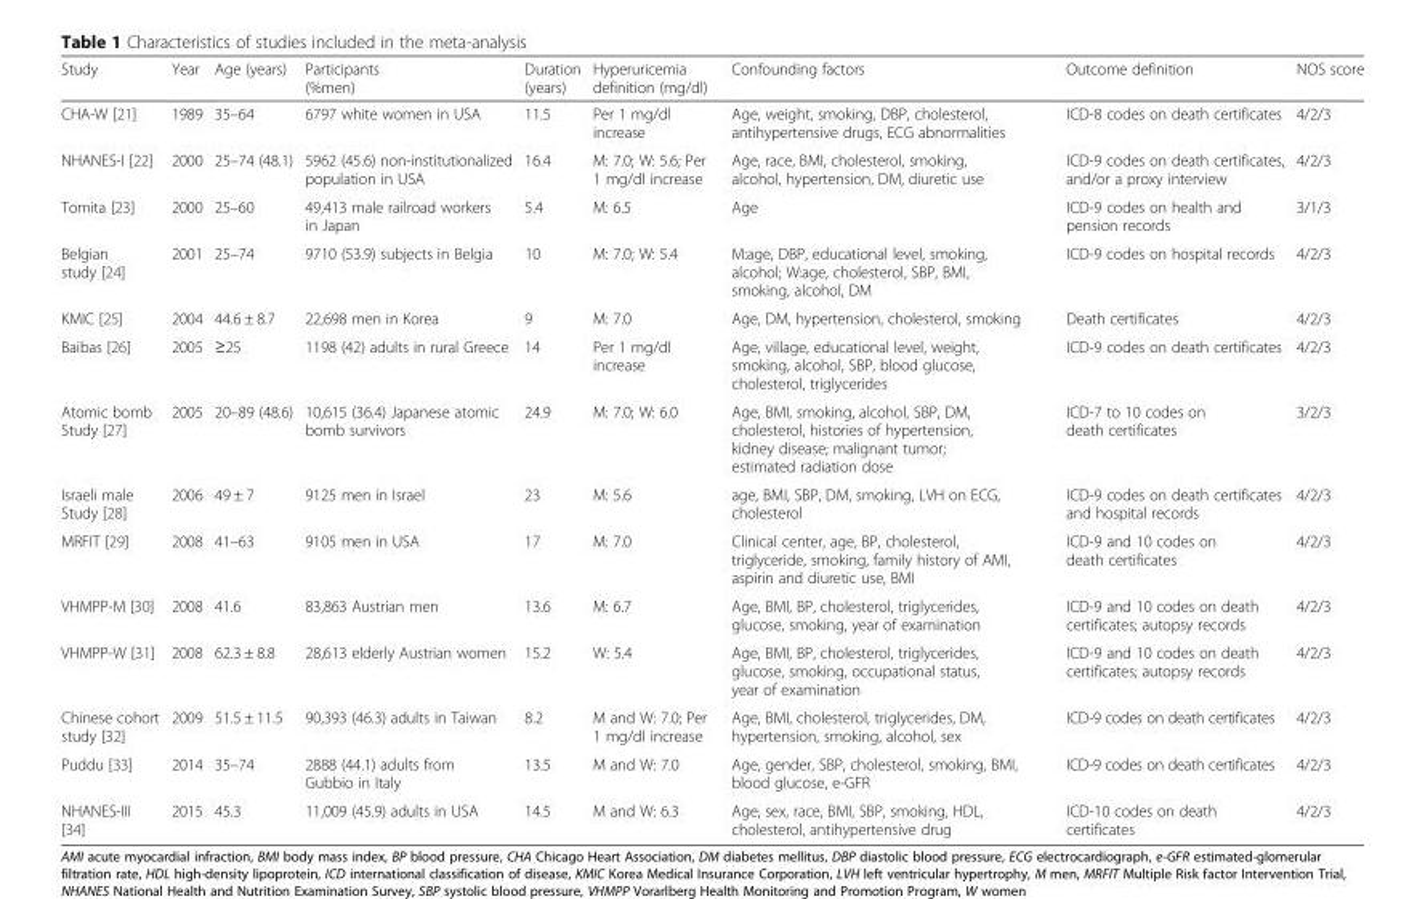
<table><thead><tr><td>Study</td><td>Year</td><td>Age (years)</td><td>Participants (%men)</td><td>Duration (years)</td><td>Hyperuricemia definition (mg/dl)</td><td>Confounding factors</td><td>Outcome definition</td><td>NOS score</td></tr></thead><tbody><tr><td>CHA-W [21]</td><td>1989</td><td>35–64</td><td>6797 white women in USA</td><td>11.5</td><td>Per 1 mg/dl increase</td><td>Age, weight, smoking, DBP, cholesterol, antihypertensive drugs, ECG abnormalities</td><td>ICD-8 codes on death certificates</td><td>4/2/3</td></tr><tr><td>NHANES-I [22]</td><td>2000</td><td>25–74 (48.1)</td><td>5962 (45.6) non-institutionalized population in USA</td><td>16.4</td><td>M: 7.0; W: 5.6; Per 1 mg/dl increase</td><td>Age, race, BMI, cholesterol, smoking, alcohol, hypertension, DM, diuretic use</td><td>ICD-9 codes on death certificates, and/or a proxy interview</td><td>4/2/3</td></tr><tr><td>Tomita [23]</td><td>2000</td><td>25–60</td><td>49,413 male railroad workers in Japan</td><td>5.4</td><td>M: 6.5</td><td>Age</td><td>ICD-9 codes on health and pension records</td><td>3/1/3</td></tr><tr><td>Belgian study [24]</td><td>2001</td><td>25–74</td><td>9710 (53.9) subjects in Belgia</td><td>10</td><td>M: 7.0; W: 5.4</td><td>M:age, DBP, educational level, smoking, alcohol; W:age, cholesterol, SBP, BMI, smoking, alcohol, DM</td><td>ICD-9 codes on hospital records</td><td>4/2/3</td></tr><tr><td>KMIC [25]</td><td>2004</td><td>44.6 ± 8.7</td><td>22,698 men in Korea</td><td>9</td><td>M: 7.0</td><td>Age, DM, hypertension, cholesterol, smoking</td><td>Death certificates</td><td>4/2/3</td></tr><tr><td>Baibas [26]</td><td>2005</td><td>≥25</td><td>1198 (42) adults in rural Greece</td><td>14</td><td>Per 1 mg/dl increase</td><td>Age, village, educational level, weight, smoking, alcohol, SBP, blood glucose, cholesterol, triglycerides</td><td>ICD-9 codes on death certificates</td><td>4/2/3</td></tr><tr><td>Atomic bomb Study [27]</td><td>2005</td><td>20–89 (48.6)</td><td>10,615 (36.4) Japanese atomic bomb survivors</td><td>24.9</td><td>M: 7.0; W: 6.0</td><td>Age, BMI, smoking, alcohol, SBP, DM, cholesterol, histories of hypertension, kidney disease; malignant tumor; estimated radiation dose</td><td>ICD-7 to 10 codes on death certificates</td><td>3/2/3</td></tr><tr><td>Israeli male Study [28]</td><td>2006</td><td>49 ± 7</td><td>9125 men in Israel</td><td>23</td><td>M: 5.6</td><td>age, BMI, SBP, DM, smoking, LVH on ECG, cholesterol</td><td>ICD-9 codes on death certificates and hospital records</td><td>4/2/3</td></tr><tr><td>MRFIT [29]</td><td>2008</td><td>41–63</td><td>9105 men in USA</td><td>17</td><td>M: 7.0</td><td>Clinical center, age, BP, cholesterol, triglyceride, smoking, family history of AMI, aspirin and diuretic use, BMI</td><td>ICD-9 and 10 codes on death certificates</td><td>4/2/3</td></tr><tr><td>VHMPP-M [30]</td><td>2008</td><td>41.6</td><td>83,863 Austrian men</td><td>13.6</td><td>M: 6.7</td><td>Age, BMI, BP, cholesterol, triglycerides, glucose, smoking, year of examination</td><td>ICD-9 and 10 codes on death certificates; autopsy records</td><td>4/2/3</td></tr><tr><td>VHMPP-W [31]</td><td>2008</td><td>62.3 ± 8.8</td><td>28,613 elderly Austrian women</td><td>15.2</td><td>W: 5.4</td><td>Age, BMI, BP, cholesterol, triglycerides, glucose, smoking, occupational status, year of examination</td><td>ICD-9 and 10 codes on death certificates; autopsy records</td><td>4/2/3</td></tr><tr><td>Chinese cohort study [32]</td><td>2009</td><td>51.5 ± 11.5</td><td>90,393 (46.3) adults in Taiwan</td><td>8.2</td><td>M and W: 7.0; Per 1 mg/dl increase</td><td>Age, BMI, cholesterol, triglycerides, DM, hypertension, smoking, alcohol, sex</td><td>ICD-9 codes on death certificates</td><td>4/2/3</td></tr><tr><td>Puddu [33]</td><td>2014</td><td>35–74</td><td>2888 (44.1) adults from Gubbio in Italy</td><td>13.5</td><td>M and W: 7.0</td><td>Age, gender, SBP, cholesterol, smoking, BMI, blood glucose, e-GFR</td><td>ICD-9 codes on death certificates</td><td>4/2/3</td></tr><tr><td>NHANES-III [34]</td><td>2015</td><td>45.3</td><td>11,009 (45.9) adults in USA</td><td>14.5</td><td>M and W: 6.3</td><td>Age, sex, race, BMI, SBP, smoking, HDL, cholesterol, antihypertensive drug</td><td>ICD-10 codes on death certificates</td><td>4/2/3</td></tr></tbody></table>